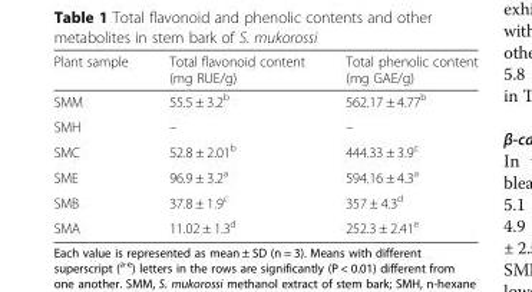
<table><thead><tr><td>Plant sample</td><td>Total flavonoid content (mg RUE/g)</td><td>Total phenolic content (mg GAE/g)</td></tr></thead><tbody><tr><td>SMM</td><td>55.5 ± 3.2<sup>b</sup></td><td>562.17 ± 4.77<sup>b</sup></td></tr><tr><td>SMH</td><td>–</td><td>–</td></tr><tr><td>SMC</td><td>52.8 ± 2.01<sup>b</sup></td><td>444.33 ± 3.9<sup>c</sup></td></tr><tr><td>SME</td><td>96.9 ± 3.2<sup>a</sup></td><td>594.16 ± 4.3<sup>a</sup></td></tr><tr><td>SMB</td><td>37.8 ± 1.9<sup>c</sup></td><td>357 ± 4.3<sup>d</sup></td></tr><tr><td>SMA</td><td>11.02 ± 1.3<sup>d</sup></td><td>252.3 ± 2.41<sup>e</sup></td></tr></tbody></table>